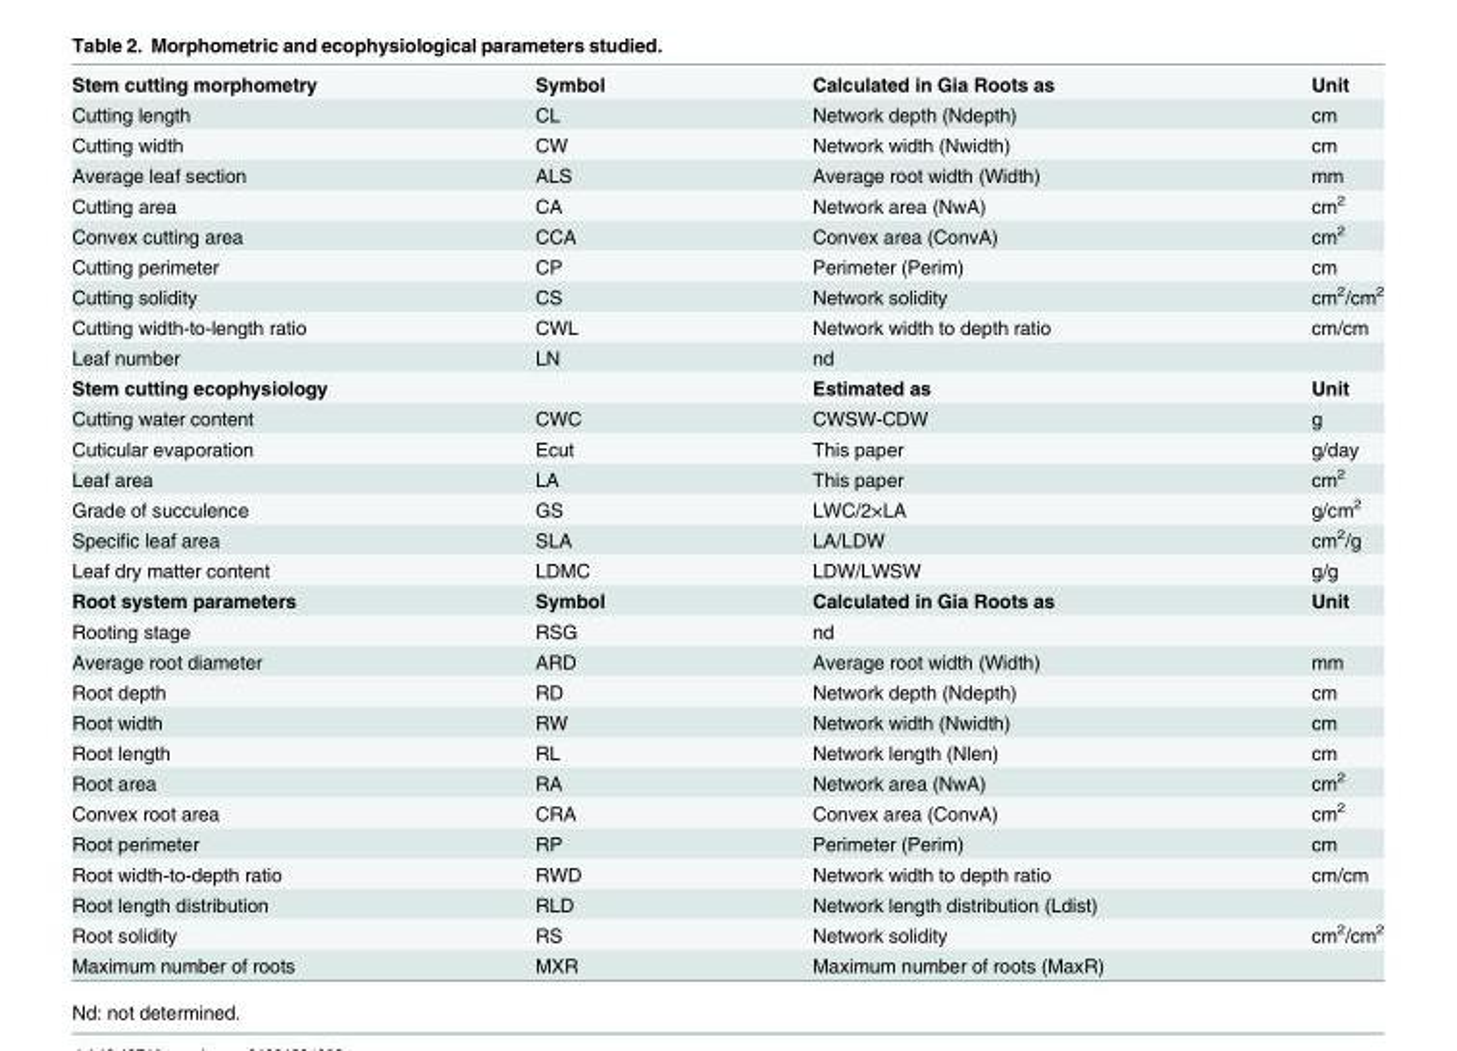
<table><tbody><tr><td>Stem cutting morphometry</td><td>Symbol</td><td>Calculated in Gia Roots as</td><td>Unit</td></tr><tr><td>Cutting length</td><td>CL</td><td>Network depth (Ndepth)</td><td>cm</td></tr><tr><td>Cutting width</td><td>CW</td><td>Network width (Nwidth)</td><td>cm</td></tr><tr><td>Average leaf section</td><td>ALS</td><td>Average root width (Width)</td><td>mm</td></tr><tr><td>Cutting area</td><td>CA</td><td>Network area (NwA)</td><td>cm<sup>2</sup></td></tr><tr><td>Convex cutting area</td><td>CCA</td><td>Convex area (ConvA)</td><td>cm<sup>2</sup></td></tr><tr><td>Cutting perimeter</td><td>CP</td><td>Perimeter (Perim)</td><td>cm</td></tr><tr><td>Cutting solidity</td><td>CS</td><td>Network solidity</td><td>cm<sup>2</sup>/cm<sup>2</sup></td></tr><tr><td>Cutting width-to-length ratio</td><td>CWL</td><td>Network width to depth ratio</td><td>cm/cm</td></tr><tr><td>Leaf number</td><td>LN</td><td>nd</td><td></td></tr><tr><td>Stem cutting ecophysiology</td><td></td><td>Estimated as</td><td>Unit</td></tr><tr><td>Cutting water content</td><td>CWC</td><td>CWSW-CDW</td><td>g</td></tr><tr><td>Cuticular evaporation</td><td>Ecut</td><td>This paper</td><td>g/day</td></tr><tr><td>Leaf area</td><td>LA</td><td>This paper</td><td>cm<sup>2</sup></td></tr><tr><td>Grade of succulence</td><td>GS</td><td>LWC/2×LA</td><td>g/cm<sup>2</sup></td></tr><tr><td>Specific leaf area</td><td>SLA</td><td>LA/LDW</td><td>cm<sup>2</sup>/g</td></tr><tr><td>Leaf dry matter content</td><td>LDMC</td><td>LDW/LWSW</td><td>g/g</td></tr><tr><td>Root system parameters</td><td>Symbol</td><td>Calculated in Gia Roots as</td><td>Unit</td></tr><tr><td>Rooting stage</td><td>RSG</td><td>nd</td><td></td></tr><tr><td>Average root diameter</td><td>ARD</td><td>Average root width (Width)</td><td>mm</td></tr><tr><td>Root depth</td><td>RD</td><td>Network depth (Ndepth)</td><td>cm</td></tr><tr><td>Root width</td><td>RW</td><td>Network width (Nwidth)</td><td>cm</td></tr><tr><td>Root length</td><td>RL</td><td>Network length (Nlen)</td><td>cm</td></tr><tr><td>Root area</td><td>RA</td><td>Network area (NwA)</td><td>cm<sup>2</sup></td></tr><tr><td>Convex root area</td><td>CRA</td><td>Convex area (ConvA)</td><td>cm<sup>2</sup></td></tr><tr><td>Root perimeter</td><td>RP</td><td>Perimeter (Perim)</td><td>cm</td></tr><tr><td>Root width-to-depth ratio</td><td>RWD</td><td>Network width to depth ratio</td><td>cm/cm</td></tr><tr><td>Root length distribution</td><td>RLD</td><td>Network length distribution (Ldist)</td><td></td></tr><tr><td>Root solidity</td><td>RS</td><td>Network solidity</td><td>cm<sup>2</sup>/cm<sup>2</sup></td></tr><tr><td>Maximum number of roots</td><td>MXR</td><td>Maximum number of roots (MaxR)</td><td></td></tr></tbody></table>